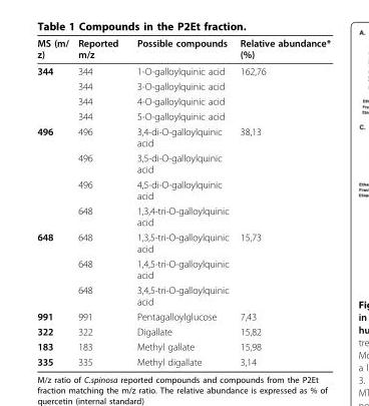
<table><thead><tr><td>MS (m/ z)</td><td>Reported m/z</td><td>Possible compounds</td><td>Relative abundance* (%)</td></tr></thead><tbody><tr><td rowspan="4">344</td><td>344</td><td>1-O-galloylquinic acid</td><td>162,76</td></tr><tr><td>344</td><td>3-O-galloylquinic acid</td><td></td></tr><tr><td>344</td><td>4-O-galloylquinic acid</td><td></td></tr><tr><td>344</td><td>5-O-galloylquinic acid</td><td></td></tr><tr><td rowspan="4">496</td><td>496</td><td>3,4-di-O-galloylquinic acid</td><td>38,13</td></tr><tr><td>496</td><td>3,5-di-O-galloylquinic acid</td><td></td></tr><tr><td>496</td><td>4,5-di-O-galloylquinic acid</td><td></td></tr><tr><td>648</td><td>1,3,4-tri-O-galloylquinic acid</td><td></td></tr><tr><td rowspan="3">648</td><td>648</td><td>1,3,5-tri-O-galloylquinic acid</td><td>15,73</td></tr><tr><td>648</td><td>1,4,5-tri-O-galloylquinic acid</td><td></td></tr><tr><td>648</td><td>3,4,5-tri-O-galloylquinic acid</td><td></td></tr><tr><td>991</td><td>991</td><td>Pentagalloylglucose</td><td>7,43</td></tr><tr><td>322</td><td>322</td><td>Digallate</td><td>15,82</td></tr><tr><td>183</td><td>183</td><td>Methyl gallate</td><td>15,98</td></tr><tr><td>335</td><td>335</td><td>Methyl digallate</td><td>3,14</td></tr></tbody></table>